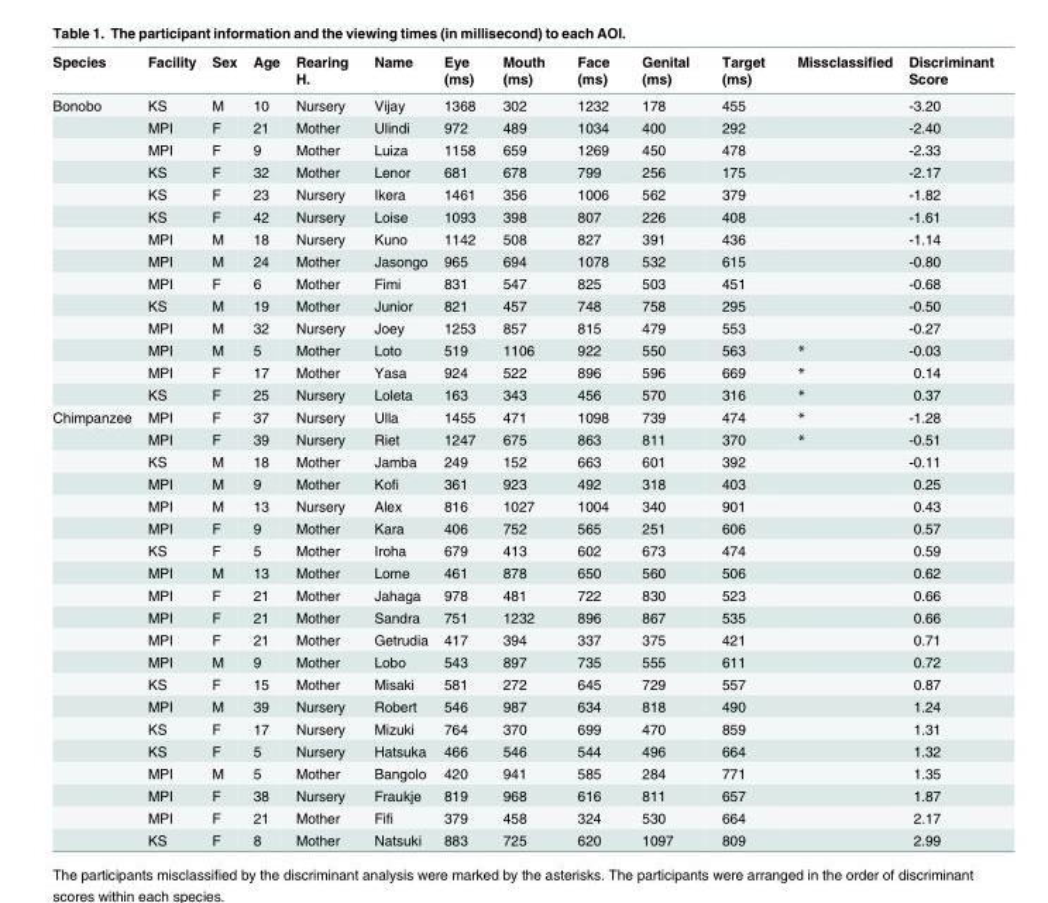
<table><thead><tr><td>Species</td><td>Facility</td><td>Sex</td><td>Age</td><td>Rearing H.</td><td>Name</td><td>Eye (ms)</td><td>Mouth (ms)</td><td>Face (ms)</td><td>Genital (ms)</td><td>Target (ms)</td><td>Missclassified</td><td>Discriminant Score</td></tr></thead><tbody><tr><td rowspan="14">Bonobo</td><td>KS</td><td>M</td><td>10</td><td>Nursery</td><td>Vijay</td><td>1368</td><td>302</td><td>1232</td><td>178</td><td>455</td><td></td><td>-3.20</td></tr><tr><td>MPI</td><td>F</td><td>21</td><td>Mother</td><td>Ulindi</td><td>972</td><td>489</td><td>1034</td><td>400</td><td>292</td><td></td><td>-2.40</td></tr><tr><td>MPI</td><td>F</td><td>9</td><td>Mother</td><td>Luiza</td><td>1158</td><td>659</td><td>1269</td><td>450</td><td>478</td><td></td><td>-2.33</td></tr><tr><td>KS</td><td>F</td><td>32</td><td>Mother</td><td>Lenor</td><td>681</td><td>678</td><td>799</td><td>256</td><td>175</td><td></td><td>-2.17</td></tr><tr><td>KS</td><td>F</td><td>23</td><td>Nursery</td><td>Ikera</td><td>1461</td><td>356</td><td>1006</td><td>562</td><td>379</td><td></td><td>-1.82</td></tr><tr><td>KS</td><td>F</td><td>42</td><td>Nursery</td><td>Loise</td><td>1093</td><td>398</td><td>807</td><td>226</td><td>408</td><td></td><td>-1.61</td></tr><tr><td>MPI</td><td>M</td><td>18</td><td>Nursery</td><td>Kuno</td><td>1142</td><td>508</td><td>827</td><td>391</td><td>436</td><td></td><td>-1.14</td></tr><tr><td>MPI</td><td>M</td><td>24</td><td>Mother</td><td>Jasongo</td><td>965</td><td>694</td><td>1078</td><td>532</td><td>615</td><td></td><td>-0.80</td></tr><tr><td>MPI</td><td>F</td><td>6</td><td>Mother</td><td>Fimi</td><td>831</td><td>547</td><td>825</td><td>503</td><td>451</td><td></td><td>-0.68</td></tr><tr><td>KS</td><td>M</td><td>19</td><td>Mother</td><td>Junior</td><td>821</td><td>457</td><td>748</td><td>758</td><td>295</td><td></td><td>-0.50</td></tr><tr><td>MPI</td><td>M</td><td>32</td><td>Nursery</td><td>Joey</td><td>1253</td><td>857</td><td>815</td><td>479</td><td>553</td><td></td><td>-0.27</td></tr><tr><td>MPI</td><td>M</td><td>5</td><td>Mother</td><td>Loto</td><td>519</td><td>1106</td><td>922</td><td>550</td><td>563</td><td>*</td><td>-0.03</td></tr><tr><td>MPI</td><td>F</td><td>17</td><td>Mother</td><td>Yasa</td><td>924</td><td>522</td><td>896</td><td>596</td><td>669</td><td>*</td><td>0.14</td></tr><tr><td>KS</td><td>F</td><td>25</td><td>Nursery</td><td>Loleta</td><td>163</td><td>343</td><td>456</td><td>570</td><td>316</td><td>*</td><td>0.37</td></tr><tr><td rowspan="20">Chimpanzee</td><td>MPI</td><td>F</td><td>37</td><td>Nursery</td><td>Ulla</td><td>1455</td><td>471</td><td>1098</td><td>739</td><td>474</td><td>*</td><td>-1.28</td></tr><tr><td>MPI</td><td>F</td><td>39</td><td>Nursery</td><td>Riet</td><td>1247</td><td>675</td><td>863</td><td>811</td><td>370</td><td>*</td><td>-0.51</td></tr><tr><td>KS</td><td>M</td><td>18</td><td>Mother</td><td>Jamba</td><td>249</td><td>152</td><td>663</td><td>601</td><td>392</td><td></td><td>-0.11</td></tr><tr><td>MPI</td><td>M</td><td>9</td><td>Mother</td><td>Kofi</td><td>361</td><td>923</td><td>492</td><td>318</td><td>403</td><td></td><td>0.25</td></tr><tr><td>MPI</td><td>M</td><td>13</td><td>Nursery</td><td>Alex</td><td>816</td><td>1027</td><td>1004</td><td>340</td><td>901</td><td></td><td>0.43</td></tr><tr><td>MPI</td><td>F</td><td>9</td><td>Mother</td><td>Kara</td><td>406</td><td>752</td><td>565</td><td>251</td><td>606</td><td></td><td>0.57</td></tr><tr><td>KS</td><td>F</td><td>5</td><td>Mother</td><td>Iroha</td><td>679</td><td>413</td><td>602</td><td>673</td><td>474</td><td></td><td>0.59</td></tr><tr><td>MPI</td><td>M</td><td>13</td><td>Mother</td><td>Lome</td><td>461</td><td>878</td><td>650</td><td>560</td><td>506</td><td></td><td>0.62</td></tr><tr><td>MPI</td><td>F</td><td>21</td><td>Mother</td><td>Jahaga</td><td>978</td><td>481</td><td>722</td><td>830</td><td>523</td><td></td><td>0.66</td></tr><tr><td>MPI</td><td>F</td><td>21</td><td>Mother</td><td>Sandra</td><td>751</td><td>1232</td><td>896</td><td>867</td><td>535</td><td></td><td>0.66</td></tr><tr><td>MPI</td><td>F</td><td>21</td><td>Mother</td><td>Getrudia</td><td>417</td><td>394</td><td>337</td><td>375</td><td>421</td><td></td><td>0.71</td></tr><tr><td>MPI</td><td>M</td><td>9</td><td>Mother</td><td>Lobo</td><td>543</td><td>897</td><td>735</td><td>555</td><td>611</td><td></td><td>0.72</td></tr><tr><td>KS</td><td>F</td><td>15</td><td>Mother</td><td>Misaki</td><td>581</td><td>272</td><td>645</td><td>729</td><td>557</td><td></td><td>0.87</td></tr><tr><td>MPI</td><td>M</td><td>39</td><td>Nursery</td><td>Robert</td><td>546</td><td>987</td><td>634</td><td>818</td><td>490</td><td></td><td>1.24</td></tr><tr><td>KS</td><td>F</td><td>17</td><td>Nursery</td><td>Mizuki</td><td>764</td><td>370</td><td>699</td><td>470</td><td>859</td><td></td><td>1.31</td></tr><tr><td>KS</td><td>F</td><td>5</td><td>Nursery</td><td>Hatsuka</td><td>466</td><td>546</td><td>544</td><td>496</td><td>664</td><td></td><td>1.32</td></tr><tr><td>MPI</td><td>M</td><td>5</td><td>Mother</td><td>Bangolo</td><td>420</td><td>941</td><td>585</td><td>284</td><td>771</td><td></td><td>1.35</td></tr><tr><td>MPI</td><td>F</td><td>38</td><td>Nursery</td><td>Fraukje</td><td>819</td><td>968</td><td>616</td><td>811</td><td>657</td><td></td><td>1.87</td></tr><tr><td>MPI</td><td>F</td><td>21</td><td>Mother</td><td>Fifi</td><td>379</td><td>458</td><td>324</td><td>530</td><td>664</td><td></td><td>2.17</td></tr><tr><td>KS</td><td>F</td><td>8</td><td>Mother</td><td>Natsuki</td><td>883</td><td>725</td><td>620</td><td>1097</td><td>809</td><td></td><td>2.99</td></tr></tbody></table>